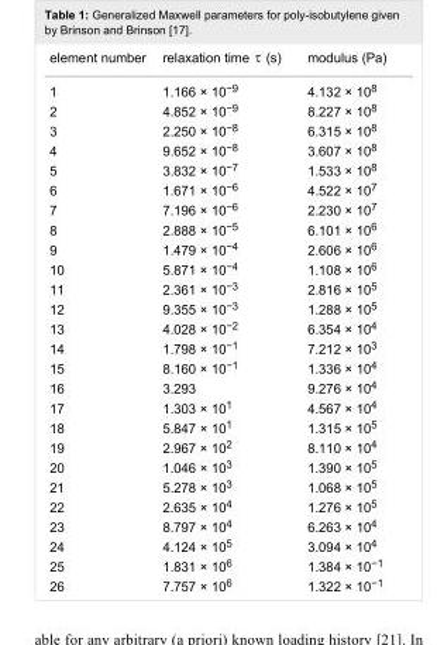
<table><tbody><tr><td>element number</td><td>relaxation time (s)</td><td>modulus (Pa)</td></tr><tr><td>1</td><td>1.166 × 10<sup>−9</sup></td><td>4.132 × 10<sup>8</sup></td></tr><tr><td>2</td><td>4.852 × 10<sup>−9</sup></td><td>8.227 × 10<sup>8</sup></td></tr><tr><td>3</td><td>2.250 × 10<sup>−8</sup></td><td>6.315 × 10<sup>8</sup></td></tr><tr><td>4</td><td>9.652 × 10<sup>−8</sup></td><td>3.607 × 10<sup>8</sup></td></tr><tr><td>5</td><td>3.832 × 10<sup>−7</sup></td><td>1.533 × 10<sup>8</sup></td></tr><tr><td>6</td><td>1.671 × 10<sup>−6</sup></td><td>4.522 × 10<sup>7</sup></td></tr><tr><td>7</td><td>7.196 × 10<sup>−6</sup></td><td>2.230 × 10<sup>7</sup></td></tr><tr><td>8</td><td>2.888 × 10<sup>−5</sup></td><td>6.101 × 10<sup>6</sup></td></tr><tr><td>9</td><td>1.479 × 10<sup>−4</sup></td><td>2.606 × 10<sup>6</sup></td></tr><tr><td>10</td><td>5.871 × 10<sup>−4</sup></td><td>1.108 × 10<sup>6</sup></td></tr><tr><td>11</td><td>2.361 × 10<sup>−3</sup></td><td>2.816 × 10<sup>5</sup></td></tr><tr><td>12</td><td>9.355 × 10<sup>−3</sup></td><td>1.288 × 10<sup>5</sup></td></tr><tr><td>13</td><td>4.028 × 10<sup>−2</sup></td><td>6.354 × 10<sup>4</sup></td></tr><tr><td>14</td><td>1.798 × 10<sup>−1</sup></td><td>7.212 × 10<sup>3</sup></td></tr><tr><td>15</td><td>8.160 × 10<sup>−1</sup></td><td>1.336 × 10<sup>4</sup></td></tr><tr><td>16</td><td>3.293</td><td>9.276 × 10<sup>4</sup></td></tr><tr><td>17</td><td>1.303 × 10<sup>1</sup></td><td>4.567 × 10<sup>4</sup></td></tr><tr><td>18</td><td>5.847 × 10<sup>1</sup></td><td>1.315 × 10<sup>5</sup></td></tr><tr><td>19</td><td>2.967 × 10<sup>2</sup></td><td>8.110 × 10<sup>4</sup></td></tr><tr><td>20</td><td>1.046 × 10<sup>3</sup></td><td>1.390 × 10<sup>5</sup></td></tr><tr><td>21</td><td>5.278 × 10<sup>3</sup></td><td>1.068 × 10<sup>5</sup></td></tr><tr><td>22</td><td>2.635 × 10<sup>4</sup></td><td>1.276 × 10<sup>5</sup></td></tr><tr><td>23</td><td>8.797 × 10<sup>4</sup></td><td>6.263 × 10<sup>4</sup></td></tr><tr><td>24</td><td>4.124 × 10<sup>5</sup></td><td>3.094 × 10<sup>4</sup></td></tr><tr><td>25</td><td>1.831 × 10<sup>6</sup></td><td>1.384 × 10<sup>−1</sup></td></tr><tr><td>26</td><td>7.757 × 10<sup>6</sup></td><td>1.322 × 10<sup>−1</sup></td></tr></tbody></table>